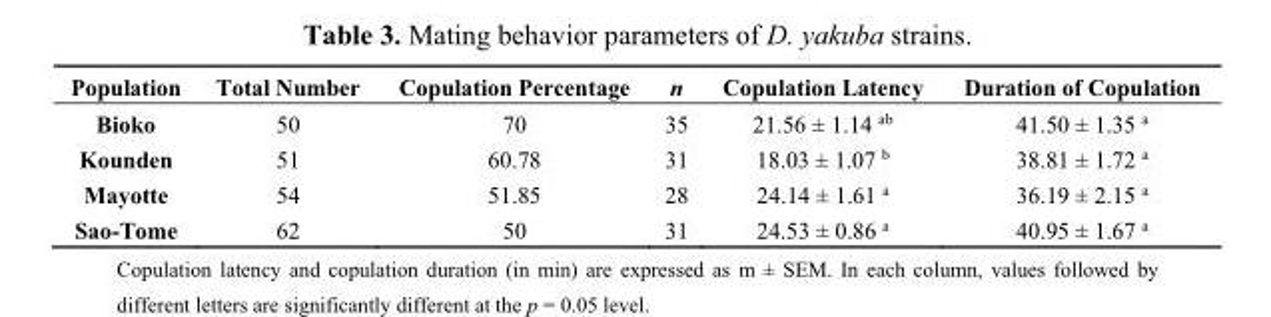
<table><thead><tr><td>Population</td><td>Total Number</td><td>Copulation Percentage</td><td>n</td><td>Copulation Latency</td><td>Duration of Copulation</td></tr></thead><tbody><tr><td>Bioko</td><td>50</td><td>70</td><td>35</td><td>21.56 ± 1.14 <sup>ab</sup></td><td>41.50 ± 1.35 <sup>a</sup></td></tr><tr><td>Kounden</td><td>51</td><td>60.78</td><td>31</td><td>18.03 ± 1.07 <sup>b</sup></td><td>38.81 ± 1.72 <sup>a</sup></td></tr><tr><td>Mayotte</td><td>54</td><td>51.85</td><td>28</td><td>24.14 ± 1.61 <sup>a</sup></td><td>36.19 ± 2.15 <sup>a</sup></td></tr><tr><td>Sao-Tome</td><td>62</td><td>50</td><td>31</td><td>24.53 ± 0.86 <sup>a</sup></td><td>40.95 ± 1.67 <sup>a</sup></td></tr></tbody></table>